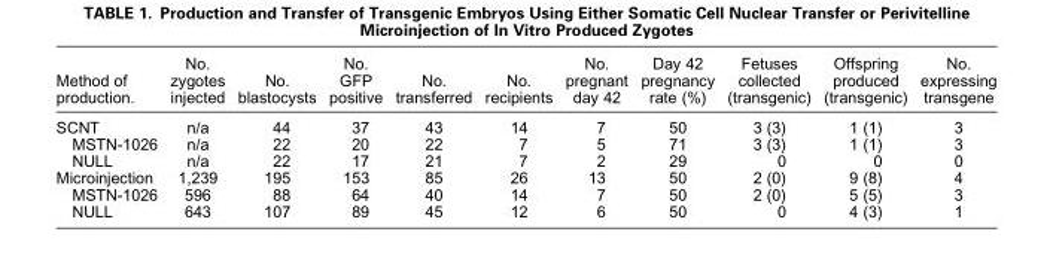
<table><thead><tr><td>Method of production.</td><td>No. zygotes injected</td><td>No. blastocysts</td><td>No. GFP positive</td><td>No. transferred</td><td>No. recipients</td><td>No. pregnant day 42</td><td>Day 42 pregnancy rate (%)</td><td>Fetuses collected (transgenic)</td><td>Offspring produced (transgenic)</td><td>No. expressing transgene</td></tr></thead><tbody><tr><td>SCNT</td><td>n/a</td><td>44</td><td>37</td><td>43</td><td>14</td><td>7</td><td>50</td><td>3 (3)</td><td>1 (1)</td><td>3</td></tr><tr><td>MSTN-1026</td><td>n/a</td><td>22</td><td>20</td><td>22</td><td>7</td><td>5</td><td>71</td><td>3 (3)</td><td>1 (1)</td><td>3</td></tr><tr><td>NULL</td><td>n/a</td><td>22</td><td>17</td><td>21</td><td>7</td><td>2</td><td>29</td><td>0</td><td>0</td><td>0</td></tr><tr><td>Microinjection</td><td>1,239</td><td>195</td><td>153</td><td>85</td><td>26</td><td>13</td><td>50</td><td>2 (0)</td><td>9 (8)</td><td>4</td></tr><tr><td>MSTN-1026</td><td>596</td><td>88</td><td>64</td><td>40</td><td>14</td><td>7</td><td>50</td><td>2 (0)</td><td>5 (5)</td><td>3</td></tr><tr><td>NULL</td><td>643</td><td>107</td><td>89</td><td>45</td><td>12</td><td>6</td><td>50</td><td>0</td><td>4 (3)</td><td>1</td></tr></tbody></table>